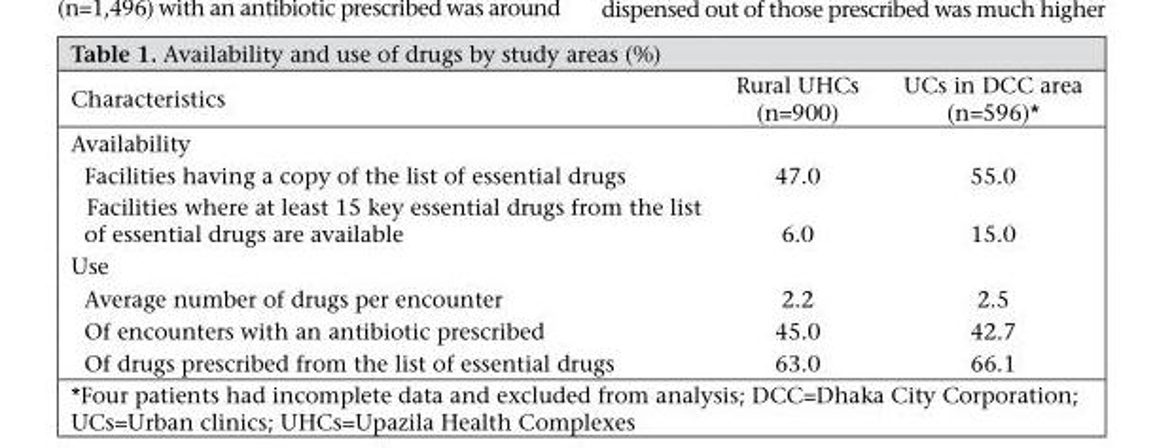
<table><thead><tr><td>Characteristics</td><td>Rural UHCs (n=900)</td><td>UCs in DCC area (n=596)*</td></tr></thead><tbody><tr><td colspan="3">Availability</td></tr><tr><td>Facilities having a copy of the list of essential drugs</td><td>47.0</td><td>55.0</td></tr><tr><td>Facilities where at least 15 key essential drugs from the list of essential drugs are available</td><td>6.0</td><td>15.0</td></tr><tr><td colspan="3">Use</td></tr><tr><td>Average number of drugs per encounter</td><td>2.2</td><td>2.5</td></tr><tr><td>Of encounters with an antibiotic prescribed</td><td>45.0</td><td>42.7</td></tr><tr><td>Of drugs prescribed from the list of essential drugs</td><td>63.0</td><td>66.1</td></tr></tbody></table>